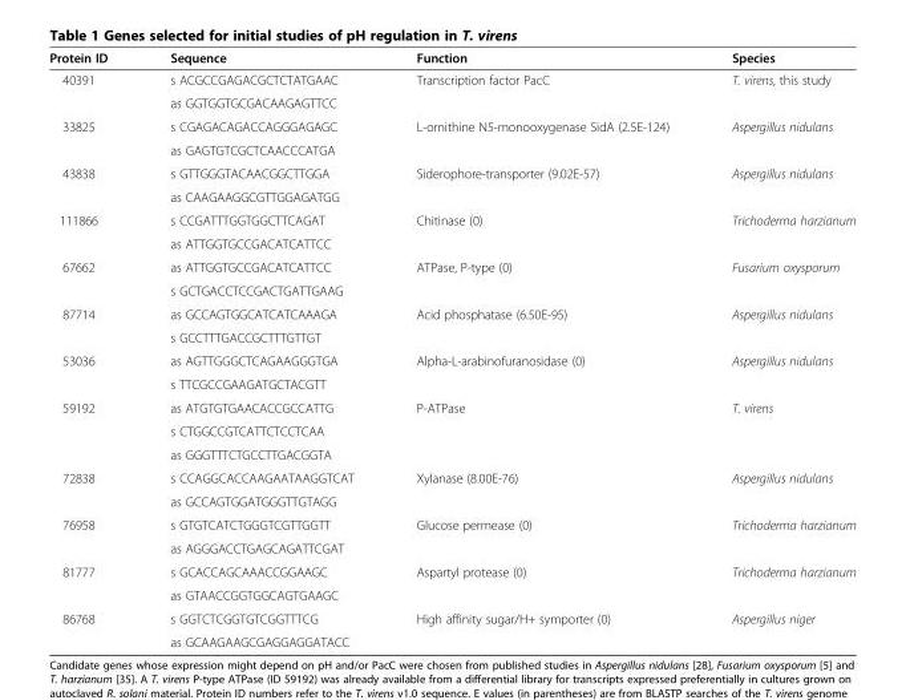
<table><thead><tr><td>Protein ID</td><td>Sequence</td><td>Function</td><td>Species</td></tr></thead><tbody><tr><td rowspan="2">40391</td><td>s ACGCCGAGACGCTCTATGAAC</td><td rowspan="2">Transcription factor PacC</td><td rowspan="2">T. virens, this study</td></tr><tr><td>as GGTGGTGCGACAAGAGTTCC</td></tr><tr><td rowspan="2">33825</td><td>s CGAGACAGACCAGGGAGAGC</td><td rowspan="2">L-ornithine N5-monooxygenase SidA (2.5E-124)</td><td rowspan="2">Aspergillus nidulans</td></tr><tr><td>as GAGTGTCGCTCAACCCATGA</td></tr><tr><td rowspan="2">43838</td><td>s GTTGGGTACAACGGCTTGGA</td><td rowspan="2">Siderophore-transporter (9.02E-57)</td><td rowspan="2">Aspergillus nidulans</td></tr><tr><td>as CAAGAAGGCGTTGGAGATGG</td></tr><tr><td rowspan="2">111866</td><td>s CCGATTTGGTGGCTTCAGAT</td><td rowspan="2">Chitinase (0)</td><td rowspan="2">Trichoderma harzianum</td></tr><tr><td>as ATTGGTGCCGACATCATTCC</td></tr><tr><td rowspan="2">67662</td><td>as ATTGGTGCCGACATCATTCC</td><td rowspan="2">ATPase, P-type (0)</td><td rowspan="2">Fusarium oxysporum</td></tr><tr><td>s GCTGACCTCCGACTGATTGAAG</td></tr><tr><td rowspan="2">87714</td><td>as GCCAGTGGCATCATCAAAGA</td><td rowspan="2">Acid phosphatase (6.50E-95)</td><td rowspan="2">Aspergillus nidulans</td></tr><tr><td>s GCCTTTGACCGCTTTGTTGT</td></tr><tr><td rowspan="2">53036</td><td>as AGTTGGGCTCAGAAGGGTGA</td><td rowspan="2">Alpha-L-arabinofuranosidase (0)</td><td rowspan="2">Aspergillus nidulans</td></tr><tr><td>s TTCGCCGAAGATGCTACGTT</td></tr><tr><td rowspan="3">59192</td><td>as ATGTGTGAACACCGCCATTG</td><td rowspan="3">P-ATPase</td><td rowspan="3">T. virens</td></tr><tr><td>s CTGGCCGTCATTCTCCTCAA</td></tr><tr><td>as GGGTTTCTGCCTTGACGGTA</td></tr><tr><td rowspan="2">72838</td><td>s CCAGGCACCAAGAATAAGGTCAT</td><td rowspan="2">Xylanase (8.00E-76)</td><td rowspan="2">Aspergillus nidulans</td></tr><tr><td>as GCCAGTGGATGGGTTGTAGG</td></tr><tr><td rowspan="2">76958</td><td>s GTGTCATCTGGGTCGTTGGTT</td><td rowspan="2">Glucose permease (0)</td><td rowspan="2">Trichoderma harzianum</td></tr><tr><td>as AGGGACCTGAGCAGATTCGAT</td></tr><tr><td rowspan="2">81777</td><td>s GCACCAGCAAACCGGAAGC</td><td rowspan="2">Aspartyl protease (0)</td><td rowspan="2">Trichoderma harzianum</td></tr><tr><td>as GTAACCGGTGGCAGTGAAGC</td></tr><tr><td rowspan="2">86768</td><td>s GGTCTCGGTGTCGGTTTCG</td><td>High affinity sugar/H+ symporter (0)</td><td>Aspergillus niger</td></tr><tr><td>as GCAAGAAGCGAGGAGGATACC</td><td></td><td></td></tr></tbody></table>